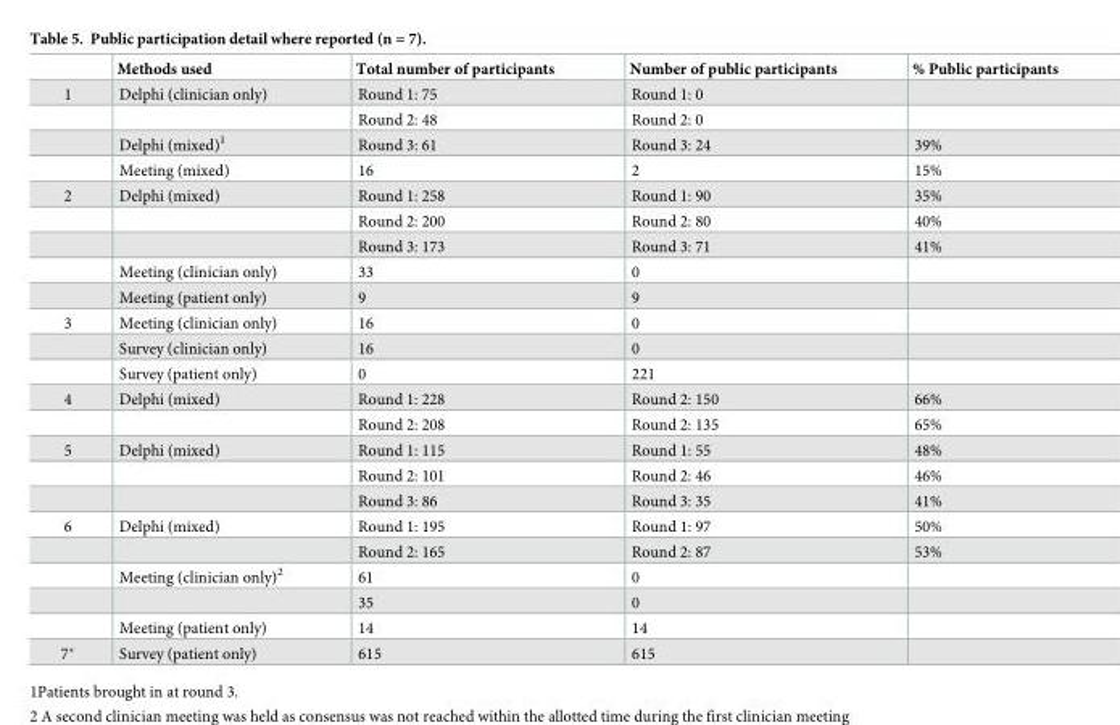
<table><thead><tr><td></td><td>Methods used</td><td>Total number of participants</td><td>Number of public participants</td><td>% Public participants</td></tr></thead><tbody><tr><td rowspan="4">1</td><td>Delphi (clinician only)</td><td>Round 1: 75</td><td>Round 1: 0</td><td></td></tr><tr><td></td><td>Round 2: 48</td><td>Round 2: 0</td><td></td></tr><tr><td>Delphi (mixed)<sup>1</sup></td><td>Round 3: 61</td><td>Round 3: 24</td><td>39%</td></tr><tr><td>Meeting (mixed)</td><td>16</td><td>2</td><td>15%</td></tr><tr><td rowspan="5">2</td><td>Delphi (mixed)</td><td>Round 1: 258</td><td>Round 1: 90</td><td>35%</td></tr><tr><td></td><td>Round 2: 200</td><td>Round 2: 80</td><td>40%</td></tr><tr><td></td><td>Round 3: 173</td><td>Round 3: 71</td><td>41%</td></tr><tr><td>Meeting (clinician only)</td><td>33</td><td>0</td><td></td></tr><tr><td>Meeting (patient only)</td><td>9</td><td>9</td><td></td></tr><tr><td rowspan="3">3</td><td>Meeting (clinician only)</td><td>16</td><td>0</td><td></td></tr><tr><td>Survey (clinician only)</td><td>16</td><td>0</td><td></td></tr><tr><td>Survey (patient only)</td><td>0</td><td>221</td><td></td></tr><tr><td rowspan="2">4</td><td>Delphi (mixed)</td><td>Round 1: 228</td><td>Round 2: 150</td><td>66%</td></tr><tr><td></td><td>Round 2: 208</td><td>Round 2: 135</td><td>65%</td></tr><tr><td rowspan="3">5</td><td>Delphi (mixed)</td><td>Round 1: 115</td><td>Round 1: 55</td><td>48%</td></tr><tr><td></td><td>Round 2: 101</td><td>Round 2: 46</td><td>46%</td></tr><tr><td></td><td>Round 3: 86</td><td>Round 3: 35</td><td>41%</td></tr><tr><td rowspan="5">6</td><td>Delphi (mixed)</td><td>Round 1: 195</td><td>Round 1: 97</td><td>50%</td></tr><tr><td></td><td>Round 2: 165</td><td>Round 2: 87</td><td>53%</td></tr><tr><td>Meeting (clinician only)<sup>2</sup></td><td>61</td><td>0</td><td></td></tr><tr><td></td><td>35</td><td>0</td><td></td></tr><tr><td>Meeting (patient only)</td><td>14</td><td>14</td><td></td></tr><tr><td>7*</td><td>Survey (patient only)</td><td>615</td><td>615</td><td></td></tr></tbody></table>